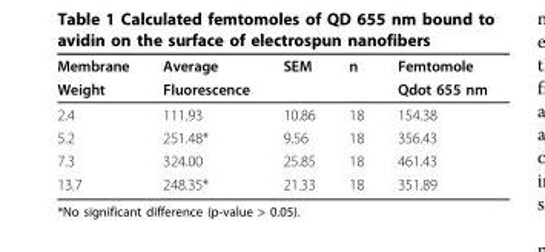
<table><thead><tr><td rowspan="2">Membrane Weight</td><td rowspan="2">Average Fluorescence</td><td rowspan="2">SEM</td><td rowspan="2">n</td><td rowspan="2">Femtomole Qdot 655 nm</td></tr><tr></tr></thead><tbody><tr><td>2.4</td><td>111.93</td><td>10.86</td><td>18</td><td>154.38</td></tr><tr><td>5.2</td><td>251.48*</td><td>9.56</td><td>18</td><td>356.43</td></tr><tr><td>7.3</td><td>324.00</td><td>25.85</td><td>18</td><td>461.43</td></tr><tr><td>13.7</td><td>248.35*</td><td>21.33</td><td>18</td><td>351.89</td></tr></tbody></table>